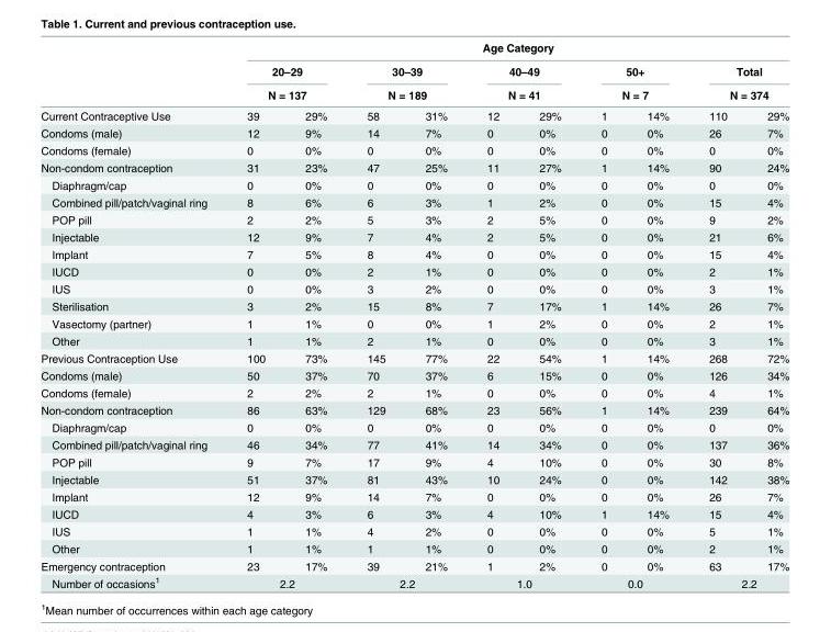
<table><thead><tr><td rowspan="4">Current Contraceptive Use</td><td colspan="10">Age Category</td></tr><tr><td rowspan="2" colspan="2">20–29 N = 137</td><td rowspan="2" colspan="2">30–39 N = 189</td><td rowspan="2" colspan="2">40–49 N = 41</td><td rowspan="2" colspan="2">50+ N = 7</td><td rowspan="2" colspan="2">Total N = 374</td></tr><tr></tr><tr><td>39</td><td>29%</td><td>58</td><td>31%</td><td>12</td><td>29%</td><td>1</td><td>14%</td><td>110</td><td>29%</td></tr></thead><tbody><tr><td>Condoms (male)</td><td>12</td><td>9%</td><td>14</td><td>7%</td><td>0</td><td>0%</td><td>0</td><td>0%</td><td>26</td><td>7%</td></tr><tr><td>Condoms (female)</td><td>0</td><td>0%</td><td>0</td><td>0%</td><td>0</td><td>0%</td><td>0</td><td>0%</td><td>0</td><td>0%</td></tr><tr><td>Non-condom contraception</td><td>31</td><td>23%</td><td>47</td><td>25%</td><td>11</td><td>27%</td><td>1</td><td>14%</td><td>90</td><td>24%</td></tr><tr><td>Diaphragm/cap</td><td>0</td><td>0%</td><td>0</td><td>0%</td><td>0</td><td>0%</td><td>0</td><td>0%</td><td>0</td><td>0%</td></tr><tr><td>Combined pill/patch/vaginal ring</td><td>8</td><td>6%</td><td>6</td><td>3%</td><td>1</td><td>2%</td><td>0</td><td>0%</td><td>15</td><td>4%</td></tr><tr><td>POP pill</td><td>2</td><td>2%</td><td>5</td><td>3%</td><td>2</td><td>5%</td><td>0</td><td>0%</td><td>9</td><td>2%</td></tr><tr><td>Injectable</td><td>12</td><td>9%</td><td>7</td><td>4%</td><td>2</td><td>5%</td><td>0</td><td>0%</td><td>21</td><td>6%</td></tr><tr><td>Implant</td><td>7</td><td>5%</td><td>8</td><td>4%</td><td>0</td><td>0%</td><td>0</td><td>0%</td><td>15</td><td>4%</td></tr><tr><td>IUCD</td><td>0</td><td>0%</td><td>2</td><td>1%</td><td>0</td><td>0%</td><td>0</td><td>0%</td><td>2</td><td>1%</td></tr><tr><td>IUS</td><td>0</td><td>0%</td><td>3</td><td>2%</td><td>0</td><td>0%</td><td>0</td><td>0%</td><td>3</td><td>1%</td></tr><tr><td>Sterilisation</td><td>3</td><td>2%</td><td>15</td><td>8%</td><td>7</td><td>17%</td><td>1</td><td>14%</td><td>26</td><td>7%</td></tr><tr><td>Vasectomy (partner)</td><td>1</td><td>1%</td><td>0</td><td>0%</td><td>1</td><td>2%</td><td>0</td><td>0%</td><td>2</td><td>1%</td></tr><tr><td>Other</td><td>1</td><td>1%</td><td>2</td><td>1%</td><td>0</td><td>0%</td><td>0</td><td>0%</td><td>3</td><td>1%</td></tr><tr><td>Previous Contraception Use</td><td>100</td><td>73%</td><td>145</td><td>77%</td><td>22</td><td>54%</td><td>1</td><td>14%</td><td>268</td><td>72%</td></tr><tr><td>Condoms (male)</td><td>50</td><td>37%</td><td>70</td><td>37%</td><td>6</td><td>15%</td><td>0</td><td>0%</td><td>126</td><td>34%</td></tr><tr><td>Condoms (female)</td><td>2</td><td>2%</td><td>2</td><td>1%</td><td>0</td><td>0%</td><td>0</td><td>0%</td><td>4</td><td>1%</td></tr><tr><td>Non-condom contraception</td><td>86</td><td>63%</td><td>129</td><td>68%</td><td>23</td><td>56%</td><td>1</td><td>14%</td><td>239</td><td>64%</td></tr><tr><td>Diaphragm/cap</td><td>0</td><td>0%</td><td>0</td><td>0%</td><td>0</td><td>0%</td><td>0</td><td>0%</td><td>0</td><td>0%</td></tr><tr><td>Combined pill/patch/vaginal ring</td><td>46</td><td>34%</td><td>77</td><td>41%</td><td>14</td><td>34%</td><td>0</td><td>0%</td><td>137</td><td>36%</td></tr><tr><td>POP pill</td><td>9</td><td>7%</td><td>17</td><td>9%</td><td>4</td><td>10%</td><td>0</td><td>0%</td><td>30</td><td>8%</td></tr><tr><td>Injectable</td><td>51</td><td>37%</td><td>81</td><td>43%</td><td>10</td><td>24%</td><td>0</td><td>0%</td><td>142</td><td>38%</td></tr><tr><td>Implant</td><td>12</td><td>9%</td><td>14</td><td>7%</td><td>0</td><td>0%</td><td>0</td><td>0%</td><td>26</td><td>7%</td></tr><tr><td>IUCD</td><td>4</td><td>3%</td><td>6</td><td>3%</td><td>4</td><td>10%</td><td>1</td><td>14%</td><td>15</td><td>4%</td></tr><tr><td>IUS</td><td>1</td><td>1%</td><td>4</td><td>2%</td><td>0</td><td>0%</td><td>0</td><td>0%</td><td>5</td><td>1%</td></tr><tr><td>Other</td><td>1</td><td>1%</td><td>1</td><td>1%</td><td>0</td><td>0%</td><td>0</td><td>0%</td><td>2</td><td>1%</td></tr><tr><td>Emergency contraception</td><td>23</td><td>17%</td><td>39</td><td>21%</td><td>1</td><td>2%</td><td>0</td><td>0%</td><td>63</td><td>17%</td></tr><tr><td>Number of occasions<sup>1</sup></td><td colspan="2">2.2</td><td colspan="2">2.2</td><td colspan="2">1.0</td><td colspan="2">0.0</td><td colspan="2">2.2</td></tr></tbody></table>